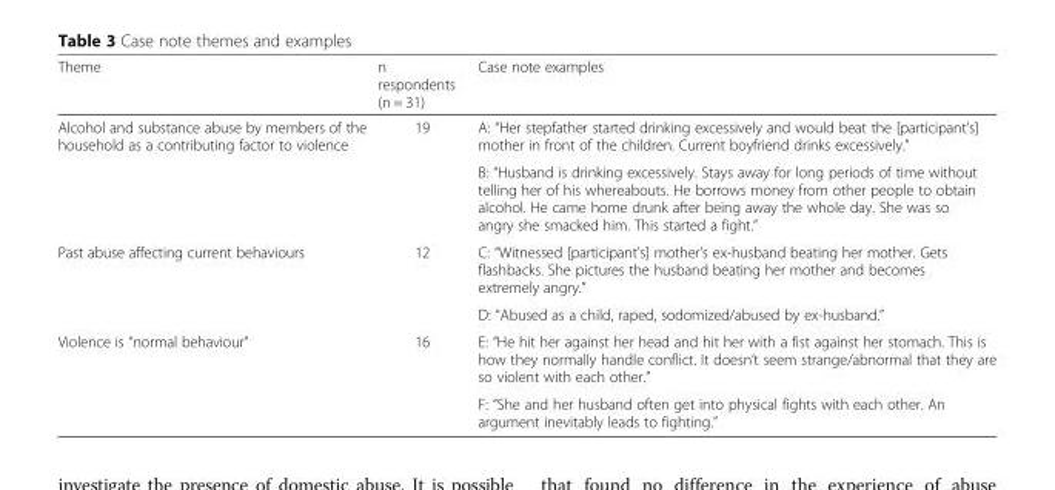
<table><thead><tr><td>Theme</td><td>n respondents (n = 31)</td><td>Case note examples</td></tr></thead><tbody><tr><td rowspan="2">Alcohol and substance abuse by members of the household as a contributing factor to violence</td><td rowspan="2">19</td><td>A: “Her stepfather started drinking excessively and would beat the [participant’s] mother in front of the children. Current boyfriend drinks excessively.”</td></tr><tr><td>B: “Husband is drinking excessively. Stays away for long periods of time without telling her of his whereabouts. He borrows money from other people to obtain alcohol. He came home drunk after being away the whole day. She was so angry she smacked him. This started a fight.”</td></tr><tr><td rowspan="2">Past abuse affecting current behaviours</td><td rowspan="2">12</td><td>C: “Witnessed [participant’s] mother’s ex-husband beating her mother. Gets flashbacks. She pictures the husband beating her mother and becomes extremely angry.”</td></tr><tr><td>D: “Abused as a child, raped, sodomized/abused by ex-husband.”</td></tr><tr><td rowspan="2">Violence is “normal behaviour”</td><td rowspan="2">16</td><td>E: “He hit her against her head and hit her with a fist against her stomach. This is how they normally handle conflict. It doesn’t seem strange/abnormal that they are so violent with each other.”</td></tr><tr><td>F: “She and her husband often get into physical fights with each other. An argument inevitably leads to fighting.”</td></tr></tbody></table>